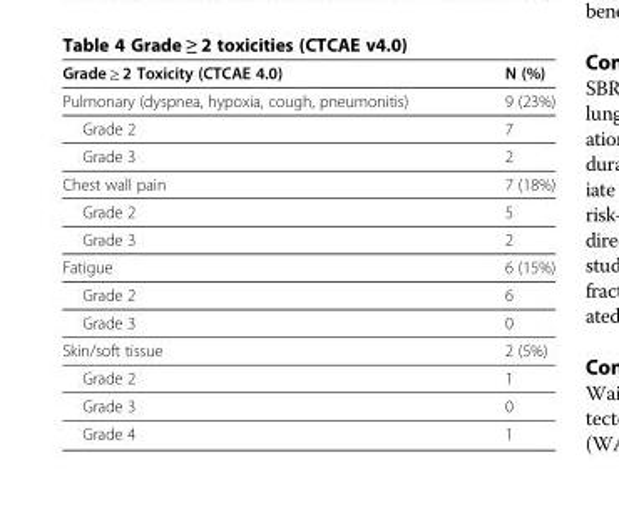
<table><thead><tr><td>Grade ≥ 2 Toxicity (CTCAE 4.0)</td><td>N (%)</td></tr></thead><tbody><tr><td>Pulmonary (dyspnea, hypoxia, cough, pneumonitis)</td><td>9 (23%)</td></tr><tr><td>Grade 2</td><td>7</td></tr><tr><td>Grade 3</td><td>2</td></tr><tr><td>Chest wall pain</td><td>7 (18%)</td></tr><tr><td>Grade 2</td><td>5</td></tr><tr><td>Grade 3</td><td>2</td></tr><tr><td>Fatigue</td><td>6 (15%)</td></tr><tr><td>Grade 2</td><td>6</td></tr><tr><td>Grade 3</td><td>0</td></tr><tr><td>Skin/soft tissue</td><td>2 (5%)</td></tr><tr><td>Grade 2</td><td>1</td></tr><tr><td>Grade 3</td><td>0</td></tr><tr><td>Grade 4</td><td>1</td></tr></tbody></table>